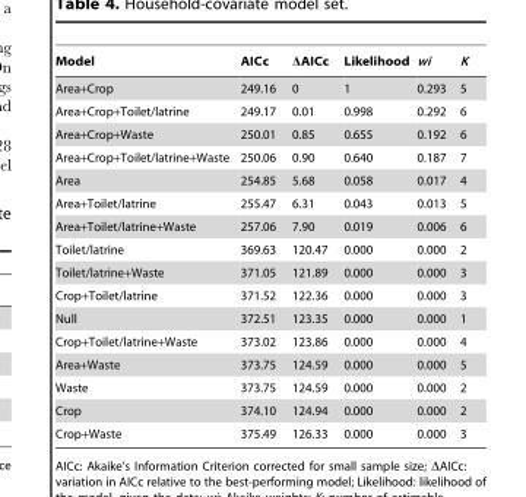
<table><thead><tr><td>Model</td><td>AICc</td><td>ΔAICc</td><td>Likelihood</td><td>wi</td><td>K</td></tr></thead><tbody><tr><td>Area+Crop</td><td>249.16</td><td>0</td><td>1</td><td>0.293</td><td>5</td></tr><tr><td>Area+Crop+Toilet/latrine</td><td>249.17</td><td>0.01</td><td>0.998</td><td>0.292</td><td>6</td></tr><tr><td>Area+Crop+Waste</td><td>250.01</td><td>0.85</td><td>0.655</td><td>0.192</td><td>6</td></tr><tr><td>Area+Crop+Toilet/latrine+Waste</td><td>250.06</td><td>0.90</td><td>0.640</td><td>0.187</td><td>7</td></tr><tr><td>Area</td><td>254.85</td><td>5.68</td><td>0.058</td><td>0.017</td><td>4</td></tr><tr><td>Area+Toilet/latrine</td><td>255.47</td><td>6.31</td><td>0.043</td><td>0.013</td><td>5</td></tr><tr><td>Area+Toilet/latrine+Waste</td><td>257.06</td><td>7.90</td><td>0.019</td><td>0.006</td><td>6</td></tr><tr><td>Toilet/latrine</td><td>369.63</td><td>120.47</td><td>0.000</td><td>0.000</td><td>2</td></tr><tr><td>Toilet/latrine+Waste</td><td>371.05</td><td>121.89</td><td>0.000</td><td>0.000</td><td>3</td></tr><tr><td>Crop+Toilet/latrine</td><td>371.52</td><td>122.36</td><td>0.000</td><td>0.000</td><td>3</td></tr><tr><td>Null</td><td>372.51</td><td>123.35</td><td>0.000</td><td>0.000</td><td>1</td></tr><tr><td>Crop+Toilet/latrine+Waste</td><td>373.02</td><td>123.86</td><td>0.000</td><td>0.000</td><td>4</td></tr><tr><td>Area+Waste</td><td>373.75</td><td>124.59</td><td>0.000</td><td>0.000</td><td>5</td></tr><tr><td>Waste</td><td>373.75</td><td>124.59</td><td>0.000</td><td>0.000</td><td>2</td></tr><tr><td>Crop</td><td>374.10</td><td>124.94</td><td>0.000</td><td>0.000</td><td>2</td></tr><tr><td>Crop+Waste</td><td>375.49</td><td>126.33</td><td>0.000</td><td>0.000</td><td>3</td></tr></tbody></table>